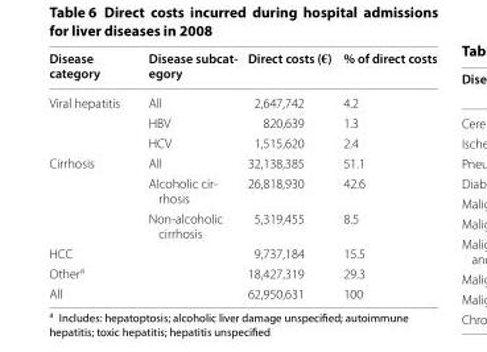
<table><thead><tr><td>Disease category</td><td>Disease subcat- egory</td><td>Direct costs (€)</td><td>% of direct costs</td></tr></thead><tbody><tr><td rowspan="3">Viral hepatitis</td><td>All</td><td>2,647,742</td><td>4.2</td></tr><tr><td>HBV</td><td>820,639</td><td>1.3</td></tr><tr><td>HCV</td><td>1,515,620</td><td>2.4</td></tr><tr><td rowspan="3">Cirrhosis</td><td>All</td><td>32,138,385</td><td>51.1</td></tr><tr><td>Alcoholic cir- rhosis</td><td>26,818,930</td><td>42.6</td></tr><tr><td>Non-alcoholic cirrhosis</td><td>5,319,455</td><td>8.5</td></tr><tr><td colspan="2">HCC</td><td>9,737,184</td><td>15.5</td></tr><tr><td colspan="2">Other<sup>a</sup></td><td>18,427,319</td><td>29.3</td></tr><tr><td colspan="2">All</td><td>62,950,631</td><td>100</td></tr></tbody></table>